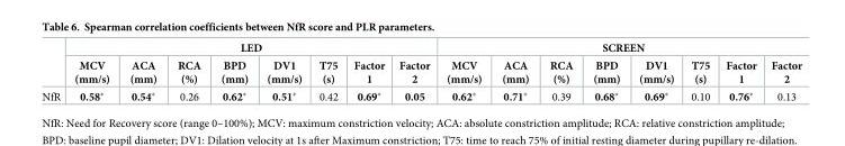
<table><thead><tr><td rowspan="2"></td><td colspan="8">LED</td><td colspan="8">SCREEN</td></tr><tr><td>MCV (mm/s)</td><td>ACA (mm)</td><td>RCA (%)</td><td>BPD (mm)</td><td>DV1 (mm/s)</td><td>T75 (s)</td><td>Factor 1</td><td>Factor 2</td><td>MCV (mm/s)</td><td>ACA (mm)</td><td>RCA (%)</td><td>BPD (mm)</td><td>DV1 (mm/s)</td><td>T75 (s)</td><td>Factor 1</td><td>Factor 2</td></tr></thead><tbody><tr><td>NfR</td><td>0.58*</td><td>0.54*</td><td>0.26</td><td>0.62*</td><td>0.51*</td><td>0.42</td><td>0.69*</td><td>0.05</td><td>0.62*</td><td>0.71*</td><td>0.39</td><td>0.68*</td><td>0.69*</td><td>0.10</td><td>0.76*</td><td>0.13</td></tr></tbody></table>